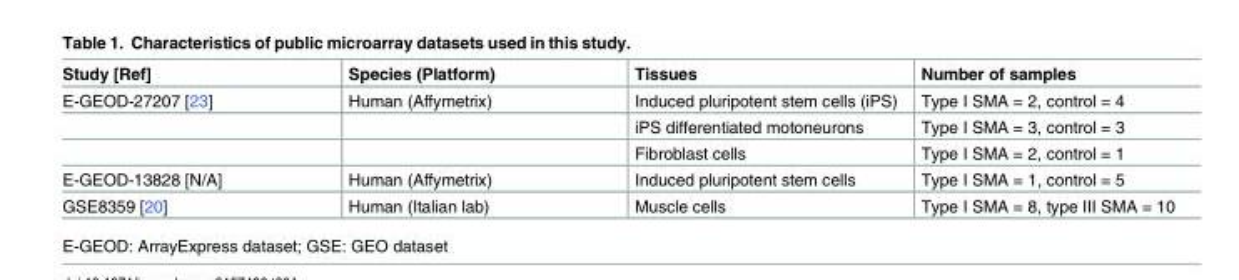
<table><thead><tr><td>Study [Ref]</td><td>Species (Platform)</td><td>Tissues</td><td>Number of samples</td></tr></thead><tbody><tr><td rowspan="3">E-GEOD-27207 [23]</td><td>Human (Affymetrix)</td><td>Induced pluripotent stem cells (iPS)</td><td>Type I SMA = 2, control = 4</td></tr><tr><td></td><td>iPS differentiated motoneurons</td><td>Type I SMA = 3, control = 3</td></tr><tr><td></td><td>Fibroblast cells</td><td>Type I SMA = 2, control = 1</td></tr><tr><td>E-GEOD-13828 [N/A]</td><td>Human (Affymetrix)</td><td>Induced pluripotent stem cells</td><td>Type I SMA = 1, control = 5</td></tr><tr><td>GSE8359 [20]</td><td>Human (Italian lab)</td><td>Muscle cells</td><td>Type I SMA = 8, type III SMA = 10</td></tr></tbody></table>